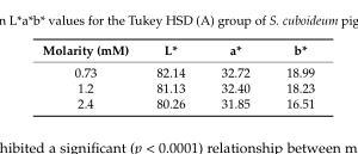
<table><thead><tr><td>Molarity (mM)</td><td>L*</td><td>a*</td><td>b*</td></tr></thead><tbody><tr><td>0.73</td><td>82.14</td><td>32.72</td><td>18.99</td></tr><tr><td>1.2</td><td>81.13</td><td>32.40</td><td>18.23</td></tr><tr><td>2.4</td><td>80.26</td><td>31.85</td><td>16.51</td></tr></tbody></table>